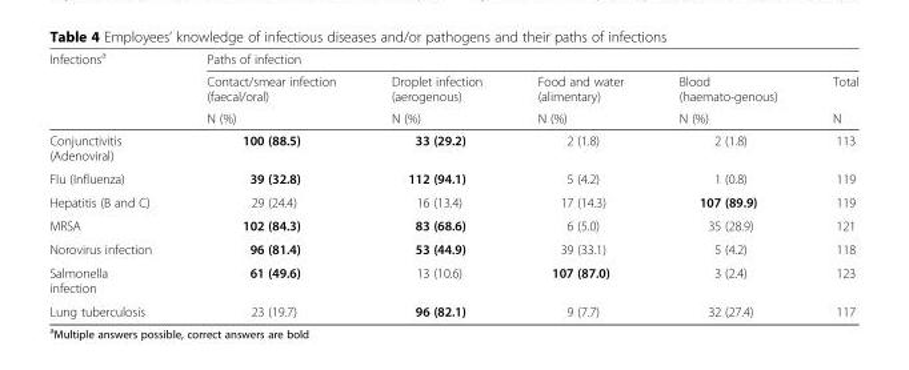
<table><thead><tr><td rowspan="3">Infections<sup>a</sup></td><td colspan="5">Paths of infection</td></tr><tr><td rowspan="2">Contact/smear infection (faecal/oral) N (%)</td><td rowspan="2">Droplet infection (aerogenous) N (%)</td><td rowspan="2">Food and water (alimentary) N (%)</td><td rowspan="2">Blood (haemato-genous) N (%)</td><td rowspan="2">Total N</td></tr><tr></tr></thead><tbody><tr><td>Conjunctivitis (Adenoviral)</td><td>100 (88.5)</td><td>33 (29.2)</td><td>2 (1.8)</td><td>2 (1.8)</td><td>113</td></tr><tr><td>Flu (Influenza)</td><td>39 (32.8)</td><td>112 (94.1)</td><td>5 (4.2)</td><td>1 (0.8)</td><td>119</td></tr><tr><td>Hepatitis (B and C)</td><td>29 (24.4)</td><td>16 (13.4)</td><td>17 (14.3)</td><td>107 (89.9)</td><td>119</td></tr><tr><td>MRSA</td><td>102 (84.3)</td><td>83 (68.6)</td><td>6 (5.0)</td><td>35 (28.9)</td><td>121</td></tr><tr><td>Norovirus infection</td><td>96 (81.4)</td><td>53 (44.9)</td><td>39 (33.1)</td><td>5 (4.2)</td><td>118</td></tr><tr><td>Salmonella infection</td><td>61 (49.6)</td><td>13 (10.6)</td><td>107 (87.0)</td><td>3 (2.4)</td><td>123</td></tr><tr><td>Lung tuberculosis</td><td>23 (19.7)</td><td>96 (82.1)</td><td>9 (7.7)</td><td>32 (27.4)</td><td>117</td></tr></tbody></table>